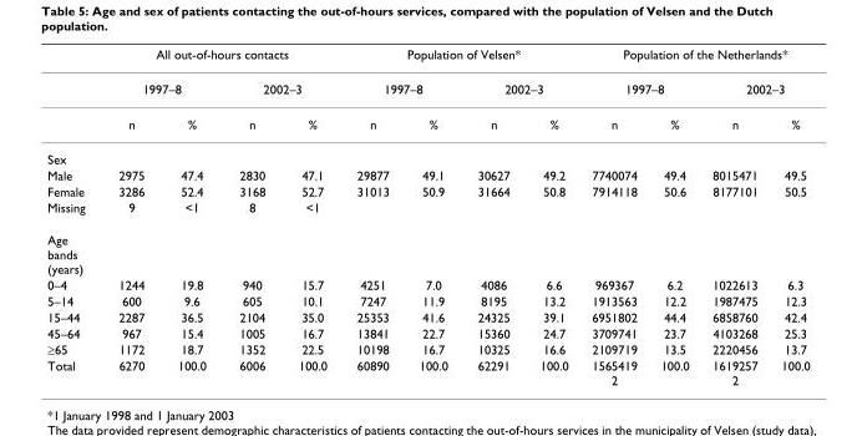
<table><thead><tr><td rowspan="3"></td><td colspan="4">All out-of-hours contacts</td><td colspan="4">Population of Velsen*</td><td colspan="4">Population of the Netherlands*</td></tr><tr><td colspan="2">1997–8</td><td colspan="2">2002–3</td><td colspan="2">1997–8</td><td colspan="2">2002–3</td><td colspan="2">1997–8</td><td colspan="2">2002–3</td></tr><tr><td>n</td><td>%</td><td>n</td><td>%</td><td>n</td><td>%</td><td>n</td><td>%</td><td>n</td><td>%</td><td>n</td><td>%</td></tr></thead><tbody><tr><td colspan="13">Sex</td></tr><tr><td>Male</td><td>2975</td><td>47.4</td><td>2830</td><td>47.1</td><td>29877</td><td>49.1</td><td>30627</td><td>49.2</td><td>7740074</td><td>49.4</td><td>8015471</td><td>49.5</td></tr><tr><td>Female</td><td>3286</td><td>52.4</td><td>3168</td><td>52.7</td><td>31013</td><td>50.9</td><td>31664</td><td>50.8</td><td>7914118</td><td>50.6</td><td>8177101</td><td>50.5</td></tr><tr><td>Missing</td><td>9</td><td>&lt;1</td><td>8</td><td>&lt;1</td><td></td><td></td><td></td><td></td><td></td><td></td><td></td><td></td></tr><tr><td colspan="13">Age bands (years)</td></tr><tr><td>0–4</td><td>1244</td><td>19.8</td><td>940</td><td>15.7</td><td>4251</td><td>7.0</td><td>4086</td><td>6.6</td><td>969367</td><td>6.2</td><td>1022613</td><td>6.3</td></tr><tr><td>5–14</td><td>600</td><td>9.6</td><td>605</td><td>10.1</td><td>7247</td><td>11.9</td><td>8195</td><td>13.2</td><td>1913563</td><td>12.2</td><td>1987475</td><td>12.3</td></tr><tr><td>15–44</td><td>2287</td><td>36.5</td><td>2104</td><td>35.0</td><td>25353</td><td>41.6</td><td>24325</td><td>39.1</td><td>6951802</td><td>44.4</td><td>6858760</td><td>42.4</td></tr><tr><td>45–64</td><td>967</td><td>15.4</td><td>1005</td><td>16.7</td><td>13841</td><td>22.7</td><td>15360</td><td>24.7</td><td>3709741</td><td>23.7</td><td>4103268</td><td>25.3</td></tr><tr><td>≥65</td><td>1172</td><td>18.7</td><td>1352</td><td>22.5</td><td>10198</td><td>16.7</td><td>10325</td><td>16.6</td><td>2109719</td><td>13.5</td><td>2220456</td><td>13.7</td></tr><tr><td>Total</td><td>6270</td><td>100.0</td><td>6006</td><td>100.0</td><td>60890</td><td>100.0</td><td>62291</td><td>100.0</td><td>1565419 2</td><td>100.0</td><td>1619257 2</td><td>100.0</td></tr></tbody></table>